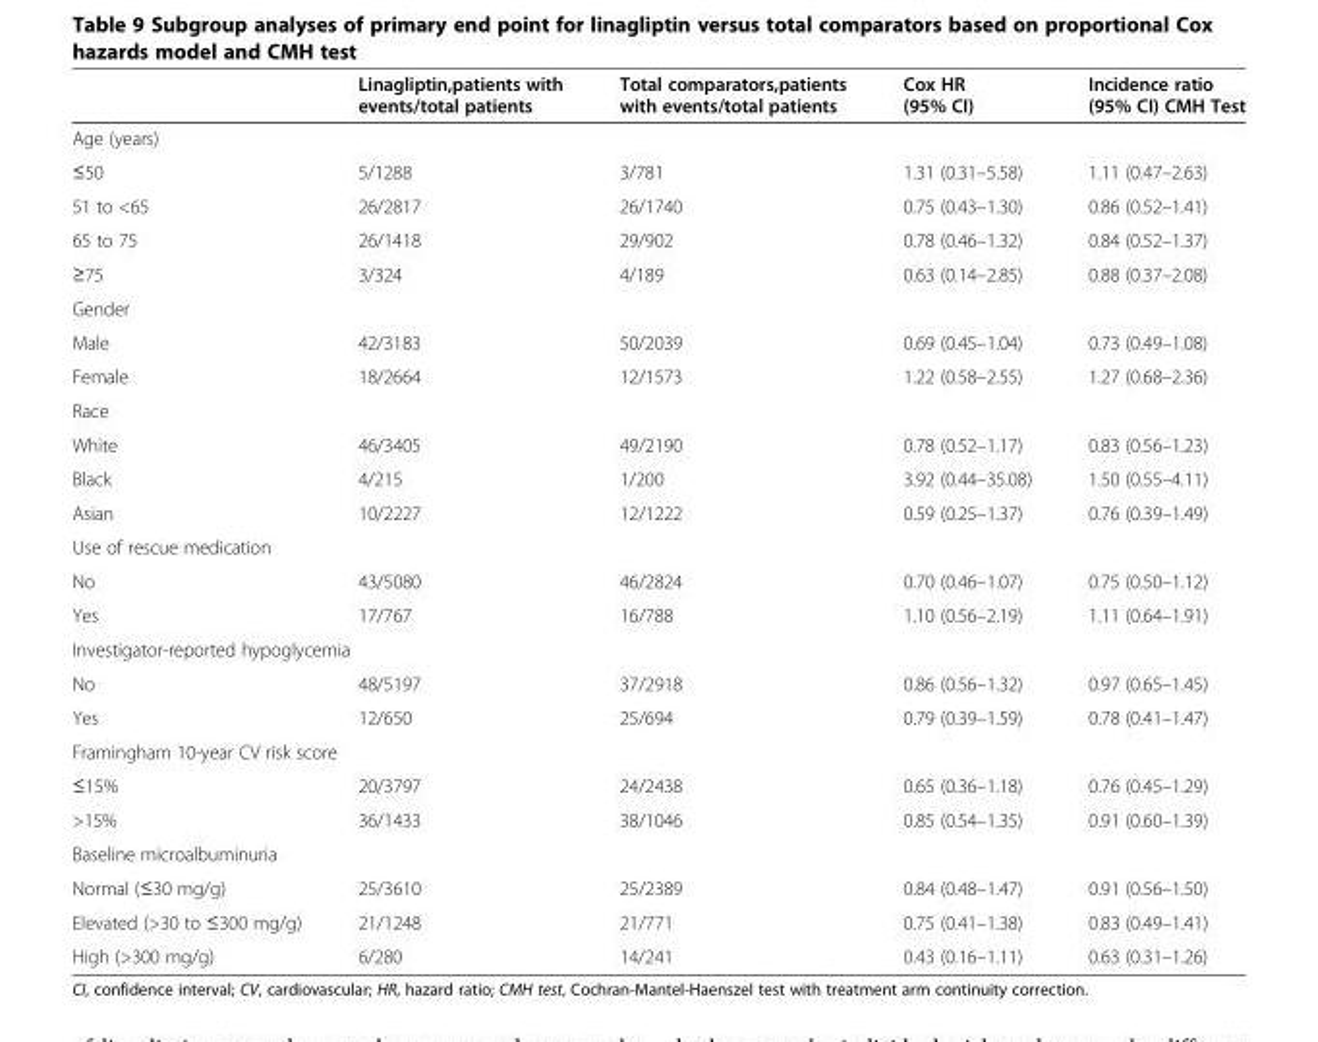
<table><thead><tr><td></td><td>Linagliptin,patients with events/total patients</td><td>Total comparators,patients with events/total patients</td><td>Cox HR (95% CI)</td><td>Incidence ratio (95% CI) CMH Test</td></tr></thead><tbody><tr><td colspan="5">Age (years)</td></tr><tr><td>≤50</td><td>5/1288</td><td>3/781</td><td>1.31 (0.31–5.58)</td><td>1.11 (0.47–2.63)</td></tr><tr><td>51 to &lt;65</td><td>26/2817</td><td>26/1740</td><td>0.75 (0.43–1.30)</td><td>0.86 (0.52–1.41)</td></tr><tr><td>65 to 75</td><td>26/1418</td><td>29/902</td><td>0.78 (0.46–1.32)</td><td>0.84 (0.52–1.37)</td></tr><tr><td>≥75</td><td>3/324</td><td>4/189</td><td>0.63 (0.14–2.85)</td><td>0.88 (0.37–2.08)</td></tr><tr><td colspan="5">Gender</td></tr><tr><td>Male</td><td>42/3183</td><td>50/2039</td><td>0.69 (0.45–1.04)</td><td>0.73 (0.49–1.08)</td></tr><tr><td>Female</td><td>18/2664</td><td>12/1573</td><td>1.22 (0.58–2.55)</td><td>1.27 (0.68–2.36)</td></tr><tr><td colspan="5">Race</td></tr><tr><td>White</td><td>46/3405</td><td>49/2190</td><td>0.78 (0.52–1.17)</td><td>0.83 (0.56–1.23)</td></tr><tr><td>Black</td><td>4/215</td><td>1/200</td><td>3.92 (0.44–35.08)</td><td>1.50 (0.55–4.11)</td></tr><tr><td>Asian</td><td>10/2227</td><td>12/1222</td><td>0.59 (0.25–1.37)</td><td>0.76 (0.39–1.49)</td></tr><tr><td colspan="5">Use of rescue medication</td></tr><tr><td>No</td><td>43/5080</td><td>46/2824</td><td>0.70 (0.46–1.07)</td><td>0.75 (0.50–1.12)</td></tr><tr><td>Yes</td><td>17/767</td><td>16/788</td><td>1.10 (0.56–2.19)</td><td>1.11 (0.64–1.91)</td></tr><tr><td colspan="5">Investigator-reported hypoglycemia</td></tr><tr><td>No</td><td>48/5197</td><td>37/2918</td><td>0.86 (0.56–1.32)</td><td>0.97 (0.65–1.45)</td></tr><tr><td>Yes</td><td>12/650</td><td>25/694</td><td>0.79 (0.39–1.59)</td><td>0.78 (0.41–1.47)</td></tr><tr><td colspan="5">Framingham 10-year CV risk score</td></tr><tr><td>≤15%</td><td>20/3797</td><td>24/2438</td><td>0.65 (0.36–1.18)</td><td>0.76 (0.45–1.29)</td></tr><tr><td>&gt;15%</td><td>36/1433</td><td>38/1046</td><td>0.85 (0.54–1.35)</td><td>0.91 (0.60–1.39)</td></tr><tr><td colspan="5">Baseline microalbuminuria</td></tr><tr><td>Normal (≤30 mg/g)</td><td>25/3610</td><td>25/2389</td><td>0.84 (0.48–1.47)</td><td>0.91 (0.56–1.50)</td></tr><tr><td>Elevated (&gt;30 to ≤300 mg/g)</td><td>21/1248</td><td>21/771</td><td>0.75 (0.41–1.38)</td><td>0.83 (0.49–1.41)</td></tr><tr><td>High (&gt;300 mg/g)</td><td>6/280</td><td>14/241</td><td>0.43 (0.16–1.11)</td><td>0.63 (0.31–1.26)</td></tr></tbody></table>